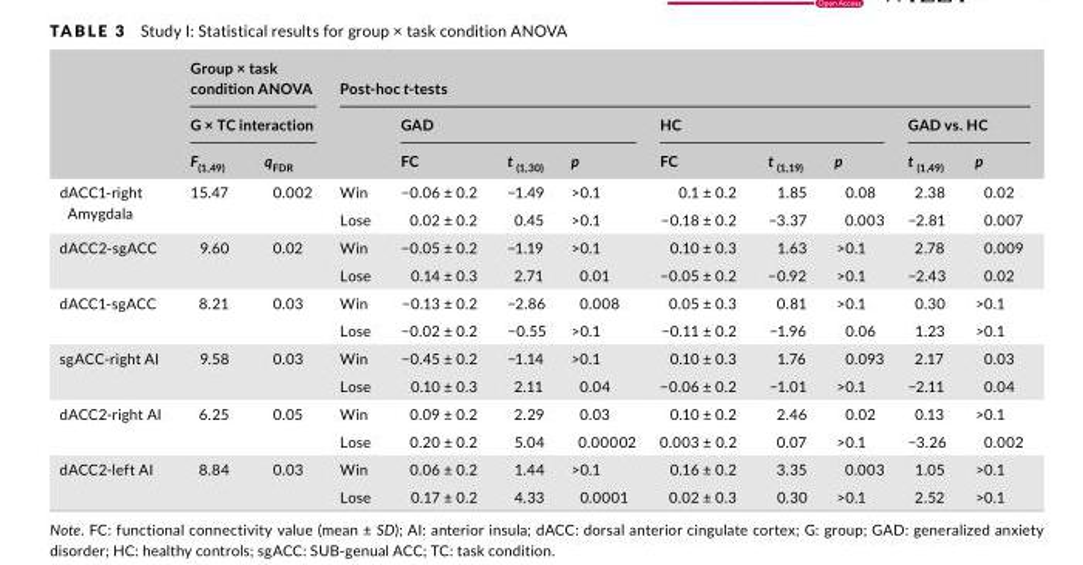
<table><thead><tr><td rowspan="3"></td><td rowspan="2" colspan="2">Group × task condition ANOVA G × TC interaction</td><td colspan="9">Post- hoc t- tests</td></tr><tr><td rowspan="2"></td><td colspan="3">GAD</td><td colspan="3">HC</td><td colspan="2">GAD vs. HC</td></tr><tr><td>F<sub>(1,49)</sub></td><td>q<sub>FDR</sub></td><td>FC</td><td>t <sub>(1,30)</sub></td><td>p</td><td>FC</td><td>t <sub>(1,19)</sub></td><td>p</td><td>t <sub>(1,49)</sub></td><td>p</td></tr></thead><tbody><tr><td rowspan="2">dACC1- right Amygdala</td><td rowspan="2">15.47</td><td rowspan="2">0.002</td><td>Win</td><td>−0.06 ± 0.2</td><td>−1.49</td><td>&gt;0.1</td><td>0.1 ± 0.2</td><td>1.85</td><td>0.08</td><td>2.38</td><td>0.02</td></tr><tr><td>Lose</td><td>0.02 ± 0.2</td><td>0.45</td><td>&gt;0.1</td><td>−0.18 ± 0.2</td><td>−3.37</td><td>0.003</td><td>−2.81</td><td>0.007</td></tr><tr><td rowspan="2">dACC2- sgACC</td><td rowspan="2">9.60</td><td rowspan="2">0.02</td><td>Win</td><td>−0.05 ± 0.2</td><td>−1.19</td><td>&gt;0.1</td><td>0.10 ± 0.3</td><td>1.63</td><td>&gt;0.1</td><td>2.78</td><td>0.009</td></tr><tr><td>Lose</td><td>0.14 ± 0.3</td><td>2.71</td><td>0.01</td><td>−0.05 ± 0.2</td><td>−0.92</td><td>&gt;0.1</td><td>−2.43</td><td>0.02</td></tr><tr><td rowspan="2">dACC1- sgACC</td><td rowspan="2">8.21</td><td rowspan="2">0.03</td><td>Win</td><td>−0.13 ± 0.2</td><td>−2.86</td><td>0.008</td><td>0.05 ± 0.3</td><td>0.81</td><td>&gt;0.1</td><td>0.30</td><td>&gt;0.1</td></tr><tr><td>Lose</td><td>−0.02 ± 0.2</td><td>−0.55</td><td>&gt;0.1</td><td>−0.11 ± 0.2</td><td>−1.96</td><td>0.06</td><td>1.23</td><td>&gt;0.1</td></tr><tr><td rowspan="2">sgACC- right AI</td><td rowspan="2">9.58</td><td rowspan="2">0.03</td><td>Win</td><td>−0.45 ± 0.2</td><td>−1.14</td><td>&gt;0.1</td><td>0.10 ± 0.3</td><td>1.76</td><td>0.093</td><td>2.17</td><td>0.03</td></tr><tr><td>Lose</td><td>0.10 ± 0.3</td><td>2.11</td><td>0.04</td><td>−0.06 ± 0.2</td><td>−1.01</td><td>&gt;0.1</td><td>−2.11</td><td>0.04</td></tr><tr><td rowspan="2">dACC2- right AI</td><td rowspan="2">6.25</td><td rowspan="2">0.05</td><td>Win</td><td>0.09 ± 0.2</td><td>2.29</td><td>0.03</td><td>0.10 ± 0.2</td><td>2.46</td><td>0.02</td><td>0.13</td><td>&gt;0.1</td></tr><tr><td>Lose</td><td>0.20 ± 0.2</td><td>5.04</td><td>0.00002</td><td>0.003 ± 0.2</td><td>0.07</td><td>&gt;0.1</td><td>−3.26</td><td>0.002</td></tr><tr><td rowspan="2">dACC2- left AI</td><td rowspan="2">8.84</td><td rowspan="2">0.03</td><td>Win</td><td>0.06 ± 0.2</td><td>1.44</td><td>&gt;0.1</td><td>0.16 ± 0.2</td><td>3.35</td><td>0.003</td><td>1.05</td><td>&gt;0.1</td></tr><tr><td>Lose</td><td>0.17 ± 0.2</td><td>4.33</td><td>0.0001</td><td>0.02 ± 0.3</td><td>0.30</td><td>&gt;0.1</td><td>2.52</td><td>&gt;0.1</td></tr></tbody></table>